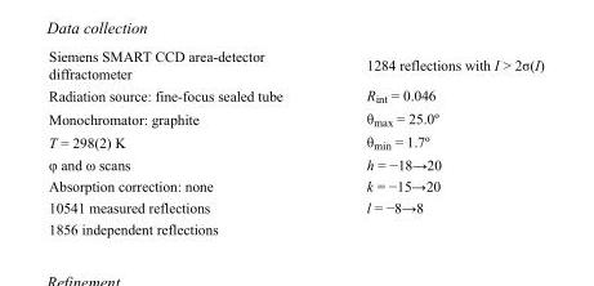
<table><tbody><tr><td>Siemens SMART CCD area-detector diffractometer</td><td>1284 reflections with I &gt; 2σ(I)</td></tr><tr><td>Radiation source: fine-focus sealed tube</td><td>R<sub>int</sub> = 0.046</td></tr><tr><td>Monochromator: graphite</td><td>θ<sub>max</sub> = 25.0º</td></tr><tr><td>T = 298(2) K</td><td>θ<sub>min</sub> = 1.7º</td></tr><tr><td>φ and ω scans</td><td>h = −18→20</td></tr><tr><td>Absorption correction: none</td><td>k = −15→20</td></tr><tr><td>10541 measured reflections</td><td>l = −8→8</td></tr><tr><td>1856 independent reflections</td><td></td></tr></tbody></table>